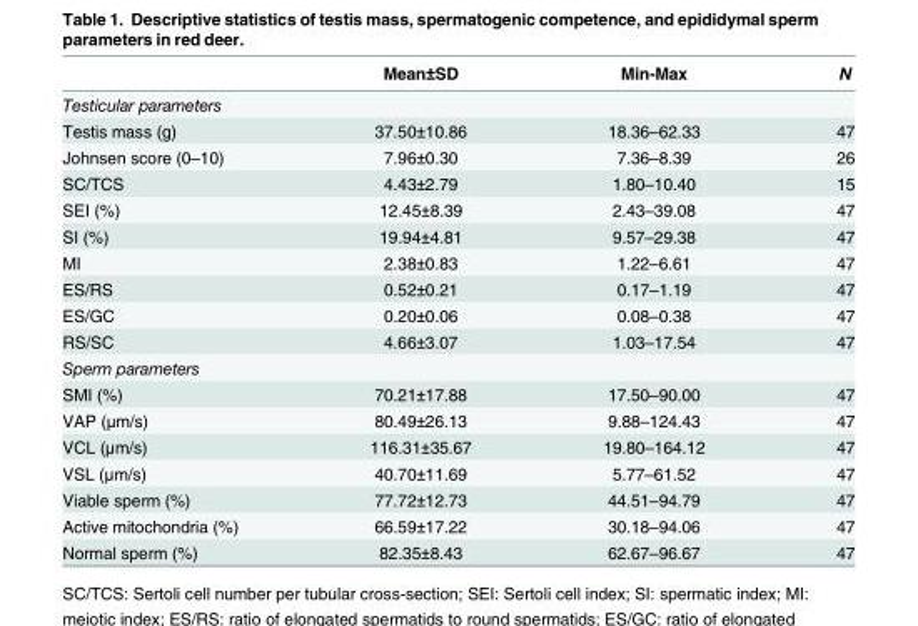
<table><thead><tr><td></td><td>Mean±SD</td><td>Min-Max</td><td>N</td></tr></thead><tbody><tr><td colspan="4">Testicular parameters</td></tr><tr><td>Testis mass (g)</td><td>37.50±10.86</td><td>18.36–62.33</td><td>47</td></tr><tr><td>Johnsen score (0–10)</td><td>7.96±0.30</td><td>7.36–8.39</td><td>26</td></tr><tr><td>SC/TCS</td><td>4.43±2.79</td><td>1.80–10.40</td><td>15</td></tr><tr><td>SEI (%)</td><td>12.45±8.39</td><td>2.43–39.08</td><td>47</td></tr><tr><td>SI (%)</td><td>19.94±4.81</td><td>9.57–29.38</td><td>47</td></tr><tr><td>MI</td><td>2.38±0.83</td><td>1.22–6.61</td><td>47</td></tr><tr><td>ES/RS</td><td>0.52±0.21</td><td>0.17–1.19</td><td>47</td></tr><tr><td>ES/GC</td><td>0.20±0.06</td><td>0.08–0.38</td><td>47</td></tr><tr><td>RS/SC</td><td>4.66±3.07</td><td>1.03–17.54</td><td>47</td></tr><tr><td colspan="4">Sperm parameters</td></tr><tr><td>SMI (%)</td><td>70.21±17.88</td><td>17.50–90.00</td><td>47</td></tr><tr><td>VAP (μm/s)</td><td>80.49±26.13</td><td>9.88–124.43</td><td>47</td></tr><tr><td>VCL (μm/s)</td><td>116.31±35.67</td><td>19.80–164.12</td><td>47</td></tr><tr><td>VSL (μm/s)</td><td>40.70±11.69</td><td>5.77–61.52</td><td>47</td></tr><tr><td>Viable sperm (%)</td><td>77.72±12.73</td><td>44.51–94.79</td><td>47</td></tr><tr><td>Active mitochondria (%)</td><td>66.59±17.22</td><td>30.18–94.06</td><td>47</td></tr><tr><td>Normal sperm (%)</td><td>82.35±8.43</td><td>62.67–96.67</td><td>47</td></tr></tbody></table>